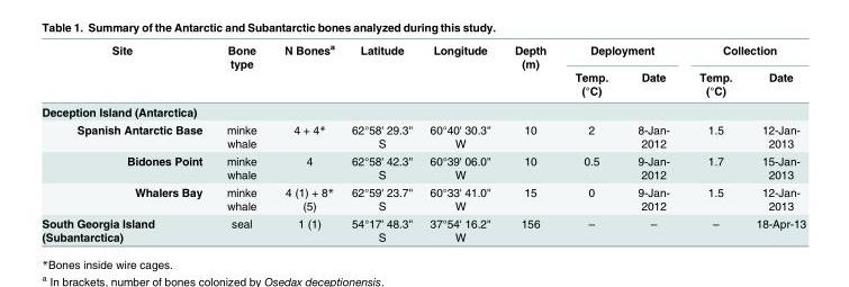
<table><thead><tr><td rowspan="2">Site</td><td rowspan="2">Bone type</td><td rowspan="2">N Bones<sup>a</sup></td><td rowspan="2">Latitude</td><td rowspan="2">Longitude</td><td rowspan="2">Depth (m)</td><td colspan="2">Deployment</td><td colspan="2">Collection</td></tr><tr><td>Temp. (°C)</td><td>Date</td><td>Temp. (°C)</td><td>Date</td></tr></thead><tbody><tr><td colspan="10">Deception Island (Antarctica)</td></tr><tr><td>Spanish Antarctic Base</td><td>minke whale</td><td>4 + 4*</td><td>62°58&#x27; 29.3&#x27;&#x27; S</td><td>60°40&#x27; 30.3&#x27;&#x27; W</td><td>10</td><td>2</td><td>8-Jan- 2012</td><td>1.5</td><td>12-Jan- 2013</td></tr><tr><td>Bidones Point</td><td>minke whale</td><td>4</td><td>62°58&#x27; 42.3&#x27;&#x27; S</td><td>60°39&#x27; 06.0&#x27;&#x27; W</td><td>10</td><td>0.5</td><td>9-Jan- 2012</td><td>1.7</td><td>15-Jan- 2013</td></tr><tr><td>Whalers Bay</td><td>minke whale</td><td>4 (1) + 8* (5)</td><td>62°59&#x27; 23.7&#x27;&#x27; S</td><td>60°33&#x27; 41.0&#x27;&#x27; W</td><td>15</td><td>0</td><td>9-Jan- 2012</td><td>1.5</td><td>12-Jan- 2013</td></tr><tr><td>South Georgia Island (Subantarctica)</td><td>seal</td><td>1 (1)</td><td>54°17&#x27; 48.3&#x27;&#x27; S</td><td>37°54&#x27; 16.2&#x27;&#x27; W</td><td>156</td><td>–</td><td>–</td><td>–</td><td>18-Apr-13</td></tr></tbody></table>